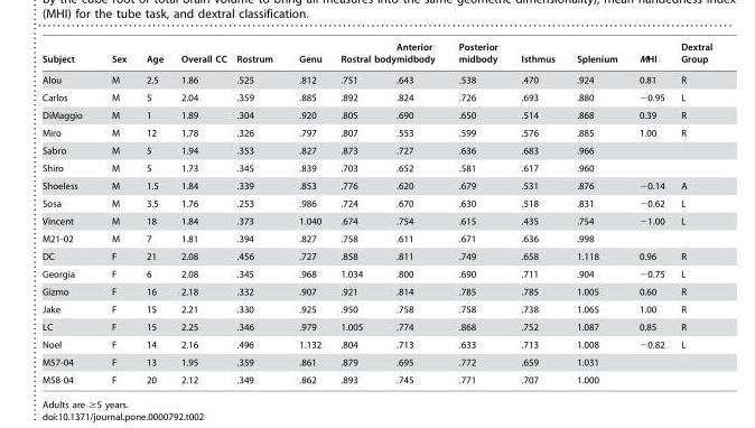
<table><thead><tr><td>Subject</td><td>Sex</td><td>Age</td><td>Overall CC</td><td>Rostrum</td><td>Genu</td><td>Rostral body</td><td>Anterior midbody</td><td>Posterior midbody</td><td>Isthmus</td><td>Splenium</td><td>MHI</td><td>Dextral Group</td></tr></thead><tbody><tr><td>Alou</td><td>M</td><td>2.5</td><td>1.86</td><td>.525</td><td>.812</td><td>.751</td><td>.643</td><td>.538</td><td>.470</td><td>.924</td><td>0.81</td><td>R</td></tr><tr><td>Carlos</td><td>M</td><td>5</td><td>2.04</td><td>.359</td><td>.885</td><td>.892</td><td>.824</td><td>.726</td><td>.693</td><td>.880</td><td>−0.95</td><td>L</td></tr><tr><td>DiMaggio</td><td>M</td><td>1</td><td>1.89</td><td>.304</td><td>.920</td><td>.805</td><td>.690</td><td>.650</td><td>.514</td><td>.868</td><td>0.39</td><td>R</td></tr><tr><td>Miro</td><td>M</td><td>12</td><td>1.78</td><td>.326</td><td>.797</td><td>.807</td><td>.553</td><td>.599</td><td>.576</td><td>.885</td><td>1.00</td><td>R</td></tr><tr><td>Sabro</td><td>M</td><td>5</td><td>1.94</td><td>.353</td><td>.827</td><td>.873</td><td>.727</td><td>.636</td><td>.683</td><td>.966</td><td></td><td></td></tr><tr><td>Shiro</td><td>M</td><td>5</td><td>1.73</td><td>.345</td><td>.839</td><td>.703</td><td>.652</td><td>.581</td><td>.617</td><td>.960</td><td></td><td></td></tr><tr><td>Shoeless</td><td>M</td><td>1.5</td><td>1.84</td><td>.339</td><td>.853</td><td>.776</td><td>.620</td><td>.679</td><td>.531</td><td>.876</td><td>−0.14</td><td>A</td></tr><tr><td>Sosa</td><td>M</td><td>3.5</td><td>1.76</td><td>.253</td><td>.986</td><td>.724</td><td>.670</td><td>.630</td><td>.518</td><td>.831</td><td>−0.62</td><td>L</td></tr><tr><td>Vincent</td><td>M</td><td>18</td><td>1.84</td><td>.373</td><td>1.040</td><td>.674</td><td>.754</td><td>.615</td><td>.435</td><td>.754</td><td>−1.00</td><td>L</td></tr><tr><td>M21-02</td><td>M</td><td>7</td><td>1.81</td><td>.394</td><td>.827</td><td>.758</td><td>.611</td><td>.671</td><td>.636</td><td>.998</td><td></td><td></td></tr><tr><td>DC</td><td>F</td><td>21</td><td>2.08</td><td>.456</td><td>.727</td><td>.858</td><td>.811</td><td>.749</td><td>.658</td><td>1.118</td><td>0.96</td><td>R</td></tr><tr><td>Georgia</td><td>F</td><td>6</td><td>2.08</td><td>.345</td><td>.968</td><td>1.034</td><td>.800</td><td>.690</td><td>.711</td><td>.904</td><td>−0.75</td><td>L</td></tr><tr><td>Gizmo</td><td>F</td><td>16</td><td>2.18</td><td>.332</td><td>.907</td><td>.921</td><td>.814</td><td>.785</td><td>.785</td><td>1.005</td><td>0.60</td><td>R</td></tr><tr><td>Jake</td><td>F</td><td>15</td><td>2.21</td><td>.330</td><td>.925</td><td>.950</td><td>.758</td><td>.758</td><td>.738</td><td>1.065</td><td>1.00</td><td>R</td></tr><tr><td>LC</td><td>F</td><td>15</td><td>2.25</td><td>.346</td><td>.979</td><td>1.005</td><td>.774</td><td>.868</td><td>.752</td><td>1.087</td><td>0.85</td><td>R</td></tr><tr><td>Noel</td><td>F</td><td>14</td><td>2.16</td><td>.496</td><td>1.132</td><td>.804</td><td>.713</td><td>.633</td><td>.713</td><td>1.008</td><td>−0.82</td><td>L</td></tr><tr><td>M57-04</td><td>F</td><td>13</td><td>1.95</td><td>.359</td><td>.861</td><td>.879</td><td>.695</td><td>.772</td><td>.659</td><td>1.031</td><td></td><td></td></tr><tr><td>M58-04</td><td>F</td><td>20</td><td>2.12</td><td>.349</td><td>.862</td><td>.893</td><td>.745</td><td>.771</td><td>.707</td><td>1.000</td><td></td><td></td></tr></tbody></table>